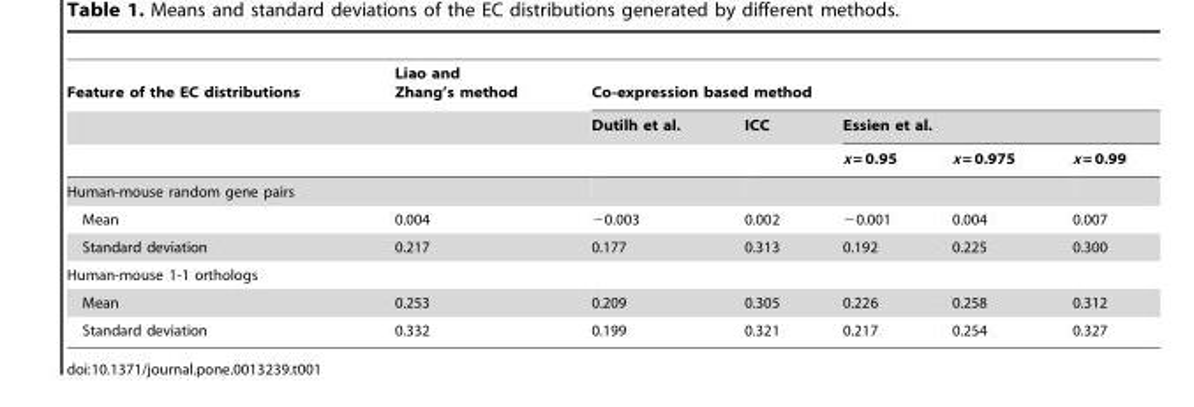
<table><thead><tr><td rowspan="3">Feature of the EC distributions</td><td rowspan="3">Liao and Zhang’s method</td><td colspan="5">Co-expression based method</td></tr><tr><td rowspan="2">Dutilh et al.</td><td rowspan="2">ICC</td><td colspan="3">Essien et al.</td></tr><tr><td>x = 0.95</td><td>x = 0.975</td><td>x = 0.99</td></tr></thead><tbody><tr><td colspan="7">Human-mouse random gene pairs</td></tr><tr><td>Mean</td><td>0.004</td><td>−0.003</td><td>0.002</td><td>−0.001</td><td>0.004</td><td>0.007</td></tr><tr><td>Standard deviation</td><td>0.217</td><td>0.177</td><td>0.313</td><td>0.192</td><td>0.225</td><td>0.300</td></tr><tr><td colspan="7">Human-mouse 1-1 orthologs</td></tr><tr><td>Mean</td><td>0.253</td><td>0.209</td><td>0.305</td><td>0.226</td><td>0.258</td><td>0.312</td></tr><tr><td>Standard deviation</td><td>0.332</td><td>0.199</td><td>0.321</td><td>0.217</td><td>0.254</td><td>0.327</td></tr></tbody></table>